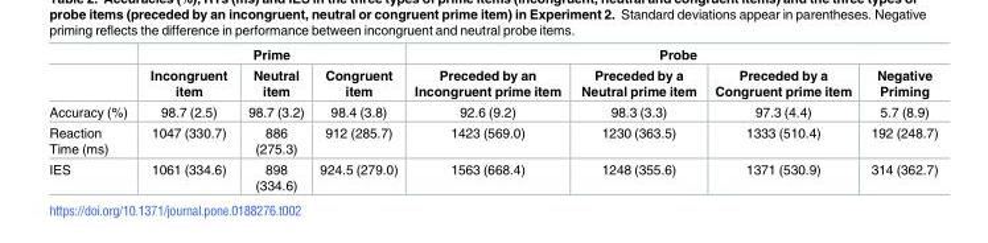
<table><thead><tr><td rowspan="2"></td><td colspan="3">Prime</td><td colspan="4">Probe</td></tr><tr><td>Incongruent item</td><td>Neutral item</td><td>Congruent item</td><td>Preceded by an Incongruent prime item</td><td>Preceded by a Neutral prime item</td><td>Preceded by a Congruent prime item</td><td>Negative Priming</td></tr></thead><tbody><tr><td>Accuracy (%)</td><td>98.7 (2.5)</td><td>98.7 (3.2)</td><td>98.4 (3.8)</td><td>92.6 (9.2)</td><td>98.3 (3.3)</td><td>97.3 (4.4)</td><td>5.7 (8.9)</td></tr><tr><td>Reaction Time (ms)</td><td>1047 (330.7)</td><td>886 (275.3)</td><td>912 (285.7)</td><td>1423 (569.0)</td><td>1230 (363.5)</td><td>1333 (510.4)</td><td>192 (248.7)</td></tr><tr><td>IES</td><td>1061 (334.6)</td><td>898 (334.6)</td><td>924.5 (279.0)</td><td>1563 (668.4)</td><td>1248 (355.6)</td><td>1371 (530.9)</td><td>314 (362.7)</td></tr></tbody></table>